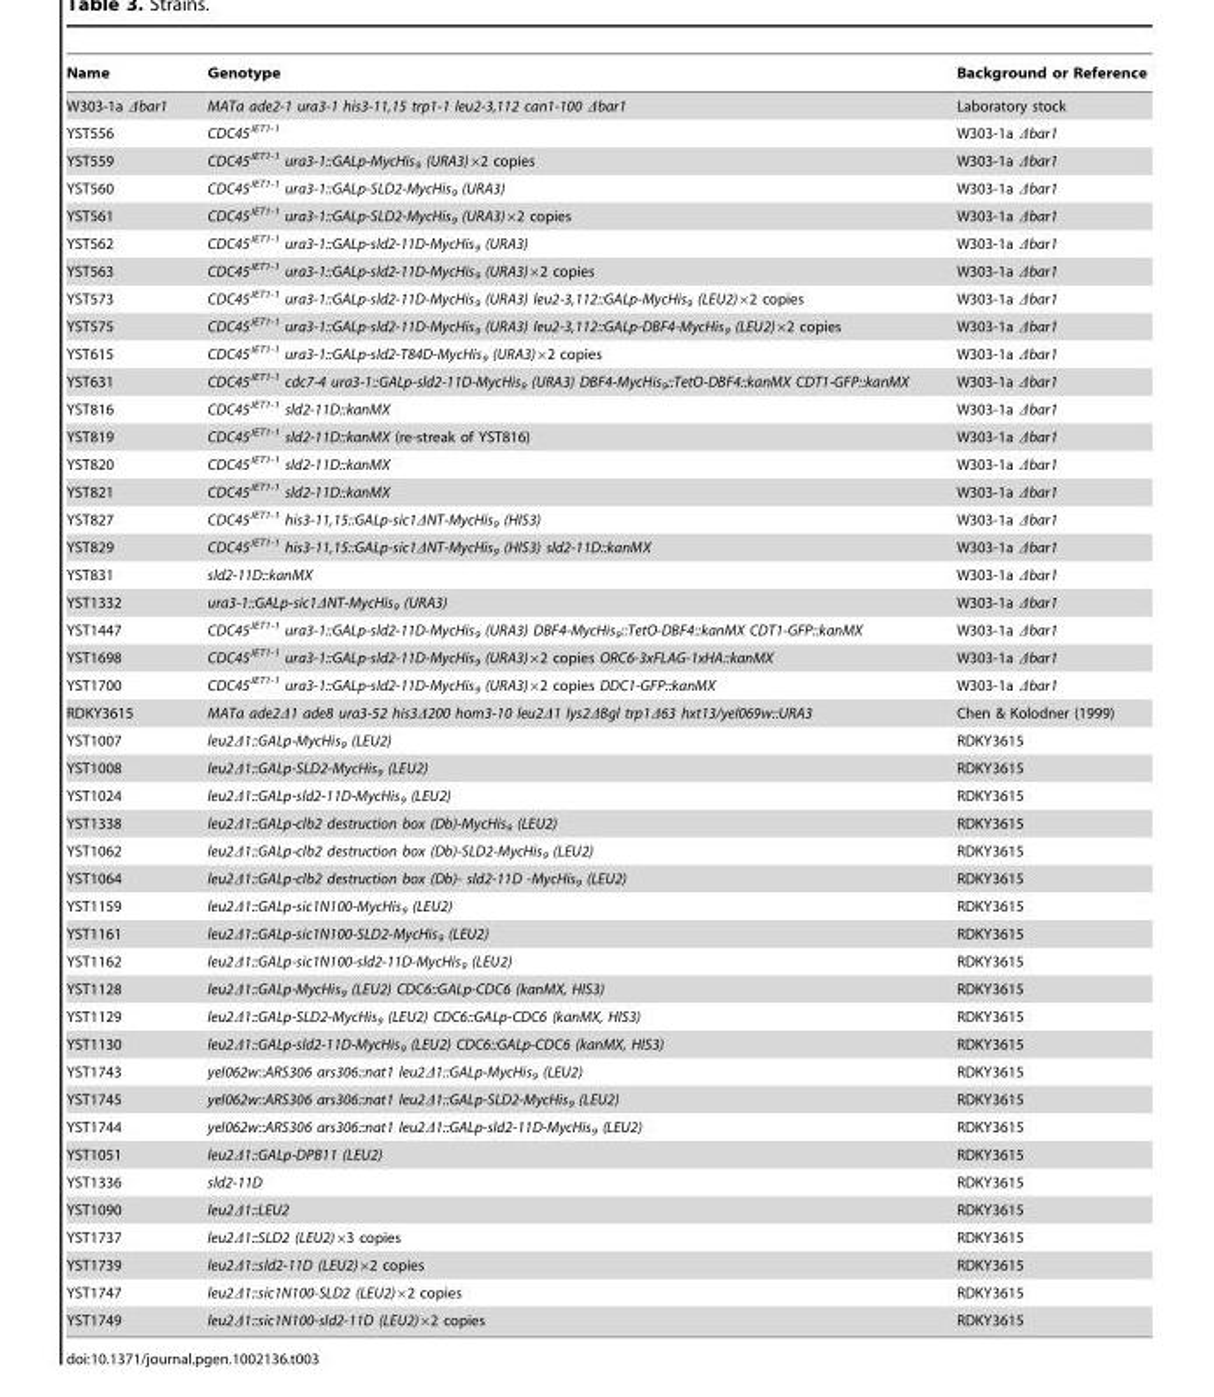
<table><thead><tr><td>Name</td><td>Genotype</td><td>Background or Reference</td></tr></thead><tbody><tr><td>W303-1a Δbar1</td><td>MATa ade2-1 ura3-1 his3-11,15 trp1-1 leu2-3,112 can1-100 Δbar1</td><td>Laboratory stock</td></tr><tr><td>YST556</td><td>CDC45<sup>JET1-1</sup></td><td>W303-1a Δbar1</td></tr><tr><td>YST559</td><td>CDC45<sup>JET1-1</sup> ura3-1::GALp-MycHis<sub>9</sub> (URA3)×2 copies</td><td>W303-1a Δbar1</td></tr><tr><td>YST560</td><td>CDC45<sup>JET1-1</sup> ura3-1::GALp-SLD2-MycHis<sub>9</sub> (URA3)</td><td>W303-1a Δbar1</td></tr><tr><td>YST561</td><td>CDC45<sup>JET1-1</sup> ura3-1::GALp-SLD2-MycHis<sub>9</sub> (URA3)×2 copies</td><td>W303-1a Δbar1</td></tr><tr><td>YST562</td><td>CDC45<sup>JET1-1</sup> ura3-1::GALp-sld2-11D-MycHis<sub>9</sub> (URA3)</td><td>W303-1a Δbar1</td></tr><tr><td>YST563</td><td>CDC45<sup>JET1-1</sup> ura3-1::GALp-sld2-11D-MycHis<sub>9</sub> (URA3)×2 copies</td><td>W303-1a Δbar1</td></tr><tr><td>YST573</td><td>CDC45<sup>JET1-1</sup> ura3-1::GALp-sld2-11D-MycHis<sub>9</sub> (URA3) leu2-3,112::GALp-MycHis<sub>9</sub> (LEU2)×2 copies</td><td>W303-1a Δbar1</td></tr><tr><td>YST575</td><td>CDC45<sup>JET1-1</sup> ura3-1::GALp-sld2-11D-MycHis<sub>9</sub> (URA3) leu2-3,112::GALp-DBF4-MycHis<sub>9</sub> (LEU2)×2 copies</td><td>W303-1a Δbar1</td></tr><tr><td>YST615</td><td>CDC45<sup>JET1-1</sup> ura3-1::GALp-sld2-T84D-MycHis<sub>9</sub> (URA3)×2 copies</td><td>W303-1a Δbar1</td></tr><tr><td>YST631</td><td>CDC45<sup>JET1-1</sup> cdc7-4 ura3-1::GALp-sld2-11D-MycHis<sub>9</sub> (URA3) DBF4-MycHis<sub>9</sub>::TetO-DBF4::kanMX CDT1-GFP::kanMX</td><td>W303-1a Δbar1</td></tr><tr><td>YST816</td><td>CDC45<sup>JET1-1</sup> sld2-11D::kanMX</td><td>W303-1a Δbar1</td></tr><tr><td>YST819</td><td>CDC45<sup>JET1-1</sup> sld2-11D::kanMX (re-streak of YST816)</td><td>W303-1a Δbar1</td></tr><tr><td>YST820</td><td>CDC45<sup>JET1-1</sup> sld2-11D::kanMX</td><td>W303-1a Δbar1</td></tr><tr><td>YST821</td><td>CDC45<sup>JET1-1</sup> sld2-11D::kanMX</td><td>W303-1a Δbar1</td></tr><tr><td>YST827</td><td>CDC45<sup>JET1-1</sup> his3-11,15::GALp-sic1ΔNT-MycHis<sub>9</sub> (HIS3)</td><td>W303-1a Δbar1</td></tr><tr><td>YST829</td><td>CDC45<sup>JET1-1</sup> his3-11,15::GALp-sic1ΔNT-MycHis<sub>9</sub> (HIS3) sld2-11D::kanMX</td><td>W303-1a Δbar1</td></tr><tr><td>YST831</td><td>sld2-11D::kanMX</td><td>W303-1a Δbar1</td></tr><tr><td>YST1332</td><td>ura3-1::GALp-sic1ΔNT-MycHis<sub>9</sub> (URA3)</td><td>W303-1a Δbar1</td></tr><tr><td>YST1447</td><td>CDC45<sup>JET1-1</sup> ura3-1::GALp-sld2-11D-MycHis<sub>9</sub> (URA3) DBF4-MycHis<sub>9</sub>::TetO-DBF4::kanMX CDT1-GFP::kanMX</td><td>W303-1a Δbar1</td></tr><tr><td>YST1698</td><td>CDC45<sup>JET1-1</sup> ura3-1::GALp-sld2-11D-MycHis<sub>9</sub> (URA3)×2 copies ORC6-3xFLAG-1xHA::kanMX</td><td>W303-1a Δbar1</td></tr><tr><td>YST1700</td><td>CDC45<sup>JET1-1</sup> ura3-1::GALp-sld2-11D-MycHis<sub>9</sub> (URA3)×2 copies DDC1-GFP::kanMX</td><td>W303-1a Δbar1</td></tr><tr><td>RDKY3615</td><td>MATa ade2Δ1 ade8 ura3-52 his3Δ200 hom3-10 leu2Δ1 lys2ΔBgl trp1Δ63 hxt13/yel069w::URA3</td><td>Chen &amp; Kolodner (1999)</td></tr><tr><td>YST1007</td><td>leu2Δ1::GALp-MycHis<sub>9</sub> (LEU2)</td><td>RDKY3615</td></tr><tr><td>YST1008</td><td>leu2Δ1::GALp-SLD2-MycHis<sub>9</sub> (LEU2)</td><td>RDKY3615</td></tr><tr><td>YST1024</td><td>leu2Δ1::GALp-sld2-11D-MycHis<sub>9</sub> (LEU2)</td><td>RDKY3615</td></tr><tr><td>YST1338</td><td>leu2Δ1::GALp-clb2 destruction box (Db)-MycHis<sub>9</sub> (LEU2)</td><td>RDKY3615</td></tr><tr><td>YST1062</td><td>leu2Δ1::GALp-clb2 destruction box (Db)-SLD2-MycHis<sub>9</sub> (LEU2)</td><td>RDKY3615</td></tr><tr><td>YST1064</td><td>leu2Δ1::GALp-clb2 destruction box (Db)- sld2-11D -MycHis<sub>9</sub> (LEU2)</td><td>RDKY3615</td></tr><tr><td>YST1159</td><td>leu2Δ1::GALp-sic1N100-MycHis<sub>9</sub> (LEU2)</td><td>RDKY3615</td></tr><tr><td>YST1161</td><td>leu2Δ1::GALp-sic1N100-SLD2-MycHis<sub>9</sub> (LEU2)</td><td>RDKY3615</td></tr><tr><td>YST1162</td><td>leu2Δ1::GALp-sic1N100-sld2-11D-MycHis<sub>9</sub> (LEU2)</td><td>RDKY3615</td></tr><tr><td>YST1128</td><td>leu2Δ1::GALp-MycHis<sub>9</sub> (LEU2) CDC6::GALp-CDC6 (kanMX, HIS3)</td><td>RDKY3615</td></tr><tr><td>YST1129</td><td>leu2Δ1::GALp-SLD2-MycHis<sub>9</sub> (LEU2) CDC6::GALp-CDC6 (kanMX, HIS3)</td><td>RDKY3615</td></tr><tr><td>YST1130</td><td>leu2Δ1::GALp-sld2-11D-MycHis<sub>9</sub> (LEU2) CDC6::GALp-CDC6 (kanMX, HIS3)</td><td>RDKY3615</td></tr><tr><td>YST1743</td><td>yel062w::ARS306 ars306::nat1 leu2Δ1::GALp-MycHis<sub>9</sub> (LEU2)</td><td>RDKY3615</td></tr><tr><td>YST1745</td><td>yel062w::ARS306 ars306::nat1 leu2Δ1::GALp-SLD2-MycHis<sub>9</sub> (LEU2)</td><td>RDKY3615</td></tr><tr><td>YST1744</td><td>yel062w::ARS306 ars306::nat1 leu2Δ1::GALp-sld2-11D-MycHis<sub>9</sub> (LEU2)</td><td>RDKY3615</td></tr><tr><td>YST1051</td><td>leu2Δ1::GALp-DPB11 (LEU2)</td><td>RDKY3615</td></tr><tr><td>YST1336</td><td>sld2-11D</td><td>RDKY3615</td></tr><tr><td>YST1090</td><td>leu2Δ1::LEU2</td><td>RDKY3615</td></tr><tr><td>YST1737</td><td>leu2Δ1::SLD2 (LEU2)×3 copies</td><td>RDKY3615</td></tr><tr><td>YST1739</td><td>leu2Δ1::sld2-11D (LEU2)×2 copies</td><td>RDKY3615</td></tr><tr><td>YST1747</td><td>leu2Δ1::sic1N100-SLD2 (LEU2)×2 copies</td><td>RDKY3615</td></tr><tr><td>YST1749</td><td>leu2Δ1::sic1N100-sld2-11D (LEU2)×2 copies</td><td>RDKY3615</td></tr></tbody></table>